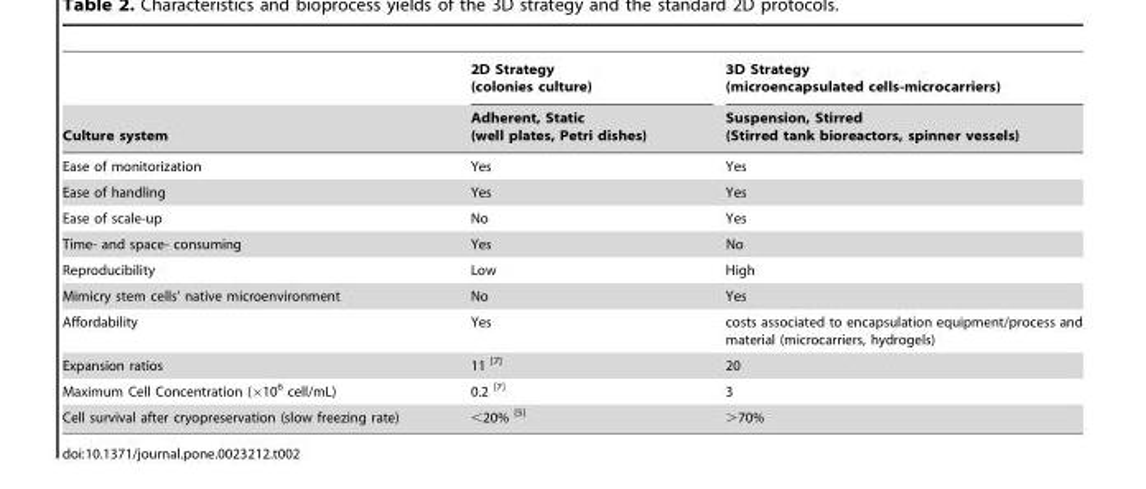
<table><thead><tr><td rowspan="2">Culture system</td><td rowspan="2">2D Strategy (colonies culture) Adherent, Static (well plates, Petri dishes)</td><td rowspan="2">3D Strategy (microencapsulated cells-microcarriers) Suspension, Stirred (Stirred tank bioreactors, spinner vessels)</td></tr><tr></tr></thead><tbody><tr><td>Ease of monitorization</td><td>Yes</td><td>Yes</td></tr><tr><td>Ease of handling</td><td>Yes</td><td>Yes</td></tr><tr><td>Ease of scale-up</td><td>No</td><td>Yes</td></tr><tr><td>Time- and space- consuming</td><td>Yes</td><td>No</td></tr><tr><td>Reproducibility</td><td>Low</td><td>High</td></tr><tr><td>Mimicry stem cells’ native microenvironment</td><td>No</td><td>Yes</td></tr><tr><td>Affordability</td><td>Yes</td><td>costs associated to encapsulation equipment/process and material (microcarriers, hydrogels)</td></tr><tr><td>Expansion ratios</td><td>11 <sup>[7]</sup></td><td>20</td></tr><tr><td>Maximum Cell Concentration (×10<sup>6</sup> cell/mL)</td><td>0.2 <sup>[7]</sup></td><td>3</td></tr><tr><td>Cell survival after cryopreservation (slow freezing rate)</td><td>&lt;20% <sup>[5]</sup></td><td>&gt;70%</td></tr></tbody></table>